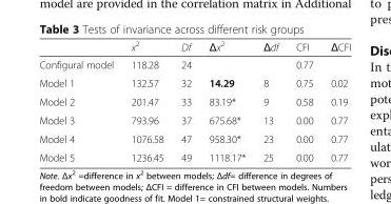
<table><thead><tr><td></td><td>x<sup>2</sup></td><td>Df</td><td>Δx<sup>2</sup></td><td>Δdf</td><td>CFI</td><td>ΔCFI</td></tr></thead><tbody><tr><td>Configural model</td><td>118.28</td><td>24</td><td></td><td></td><td>0.77</td><td></td></tr><tr><td>Model 1</td><td>132.57</td><td>32</td><td>14.29</td><td>8</td><td>0.75</td><td>0.02</td></tr><tr><td>Model 2</td><td>201.47</td><td>33</td><td>83.19*</td><td>9</td><td>0.58</td><td>0.19</td></tr><tr><td>Model 3</td><td>793.96</td><td>37</td><td>675.68*</td><td>13</td><td>0.00</td><td>0.77</td></tr><tr><td>Model 4</td><td>1076.58</td><td>47</td><td>958.30*</td><td>23</td><td>0.00</td><td>0.77</td></tr><tr><td>Model 5</td><td>1236.45</td><td>49</td><td>1118.17*</td><td>25</td><td>0.00</td><td>0.77</td></tr></tbody></table>